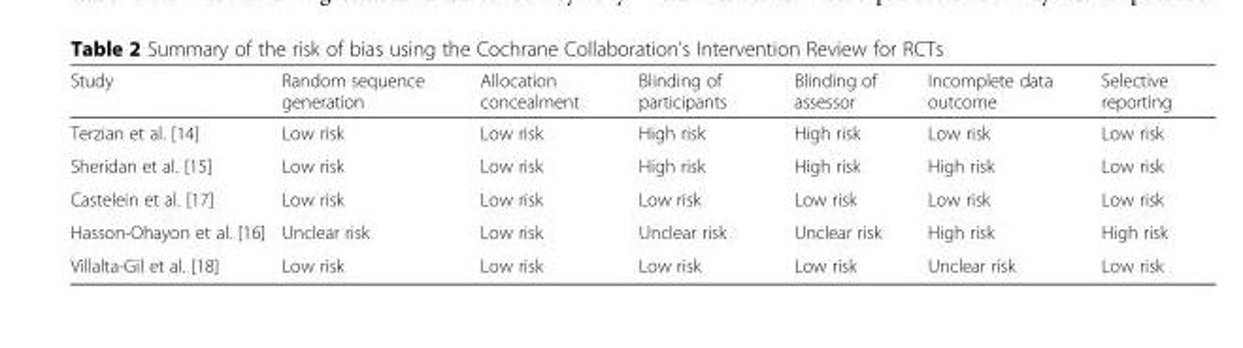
<table><thead><tr><td>Study</td><td>Random sequence generation</td><td>Allocation concealment</td><td>Blinding of participants</td><td>Blinding of assessor</td><td>Incomplete data outcome</td><td>Selective reporting</td></tr></thead><tbody><tr><td>Terzian et al. [14]</td><td>Low risk</td><td>Low risk</td><td>High risk</td><td>High risk</td><td>Low risk</td><td>Low risk</td></tr><tr><td>Sheridan et al. [15]</td><td>Low risk</td><td>Low risk</td><td>High risk</td><td>High risk</td><td>High risk</td><td>Low risk</td></tr><tr><td>Castelein et al. [17]</td><td>Low risk</td><td>Low risk</td><td>Low risk</td><td>Low risk</td><td>Low risk</td><td>Low risk</td></tr><tr><td>Hasson-Ohayon et al. [16]</td><td>Unclear risk</td><td>Low risk</td><td>Unclear risk</td><td>Unclear risk</td><td>High risk</td><td>High risk</td></tr><tr><td>Villalta-Gil et al. [18]</td><td>Low risk</td><td>Low risk</td><td>Low risk</td><td>Low risk</td><td>Unclear risk</td><td>Low risk</td></tr></tbody></table>